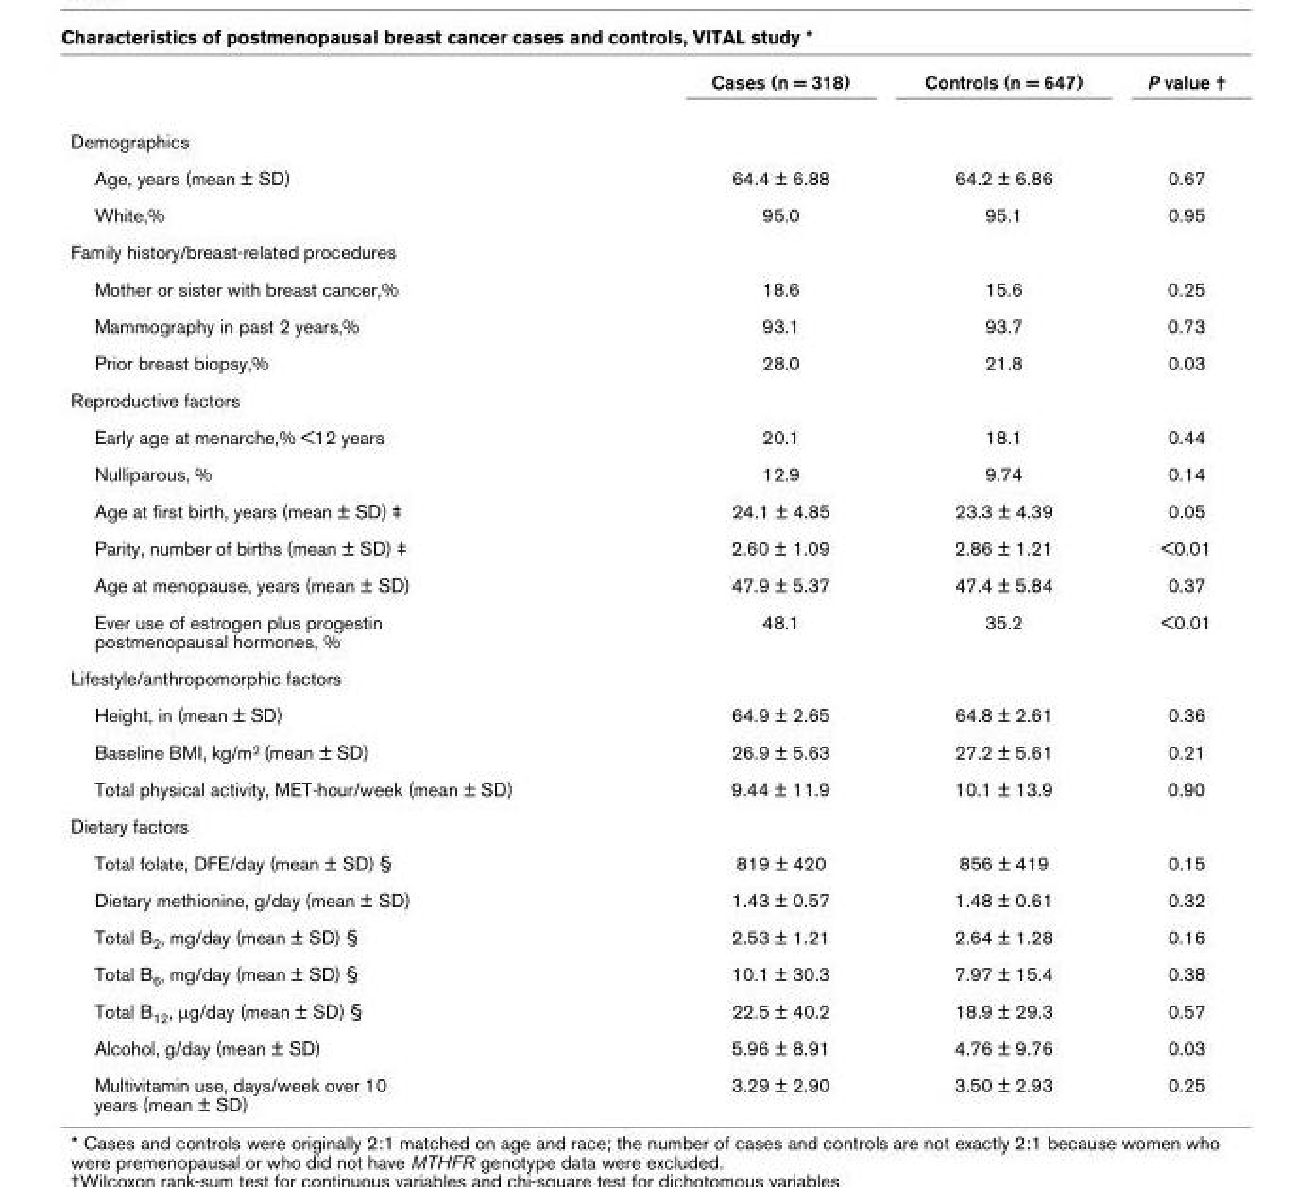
<table><thead><tr><td></td><td>Cases (n = 318)</td><td>Controls (n = 647)</td><td>P value †</td></tr></thead><tbody><tr><td colspan="4">Demographics</td></tr><tr><td>Age, years (mean ± SD)</td><td>64.4 ± 6.88</td><td>64.2 ± 6.86</td><td>0.67</td></tr><tr><td>White,%</td><td>95.0</td><td>95.1</td><td>0.95</td></tr><tr><td colspan="4">Family history/breast-related procedures</td></tr><tr><td>Mother or sister with breast cancer,%</td><td>18.6</td><td>15.6</td><td>0.25</td></tr><tr><td>Mammography in past 2 years,%</td><td>93.1</td><td>93.7</td><td>0.73</td></tr><tr><td>Prior breast biopsy,%</td><td>28.0</td><td>21.8</td><td>0.03</td></tr><tr><td colspan="4">Reproductive factors</td></tr><tr><td>Early age at menarche,% &lt;12 years</td><td>20.1</td><td>18.1</td><td>0.44</td></tr><tr><td>Nulliparous, %</td><td>12.9</td><td>9.74</td><td>0.14</td></tr><tr><td>Age at first birth, years (mean ± SD) ‡</td><td>24.1 ± 4.85</td><td>23.3 ± 4.39</td><td>0.05</td></tr><tr><td>Parity, number of births (mean ± SD) ‡</td><td>2.60 ± 1.09</td><td>2.86 ± 1.21</td><td>&lt;0.01</td></tr><tr><td>Age at menopause, years (mean ± SD)</td><td>47.9 ± 5.37</td><td>47.4 ± 5.84</td><td>0.37</td></tr><tr><td>Ever use of estrogen plus progestin postmenopausal hormones, %</td><td>48.1</td><td>35.2</td><td>&lt;0.01</td></tr><tr><td colspan="4">Lifestyle/anthropomorphic factors</td></tr><tr><td>Height, in (mean ± SD)</td><td>64.9 ± 2.65</td><td>64.8 ± 2.61</td><td>0.36</td></tr><tr><td>Baseline BMI, kg/m<sup>2</sup> (mean ± SD)</td><td>26.9 ± 5.63</td><td>27.2 ± 5.61</td><td>0.21</td></tr><tr><td>Total physical activity, MET-hour/week (mean ± SD)</td><td>9.44 ± 11.9</td><td>10.1 ± 13.9</td><td>0.90</td></tr><tr><td colspan="4">Dietary factors</td></tr><tr><td>Total folate, DFE/day (mean ± SD) §</td><td>819 ± 420</td><td>856 ± 419</td><td>0.15</td></tr><tr><td>Dietary methionine, g/day (mean ± SD)</td><td>1.43 ± 0.57</td><td>1.48 ± 0.61</td><td>0.32</td></tr><tr><td>Total B<sub>2</sub>, mg/day (mean ± SD) §</td><td>2.53 ± 1.21</td><td>2.64 ± 1.28</td><td>0.16</td></tr><tr><td>Total B<sub>6</sub>, mg/day (mean ± SD) §</td><td>10.1 ± 30.3</td><td>7.97 ± 15.4</td><td>0.38</td></tr><tr><td>Total B<sub>12</sub>, μg/day (mean ± SD) §</td><td>22.5 ± 40.2</td><td>18.9 ± 29.3</td><td>0.57</td></tr><tr><td>Alcohol, g/day (mean ± SD)</td><td>5.96 ± 8.91</td><td>4.76 ± 9.76</td><td>0.03</td></tr><tr><td>Multivitamin use, days/week over 10 years (mean ± SD)</td><td>3.29 ± 2.90</td><td>3.50 ± 2.93</td><td>0.25</td></tr></tbody></table>